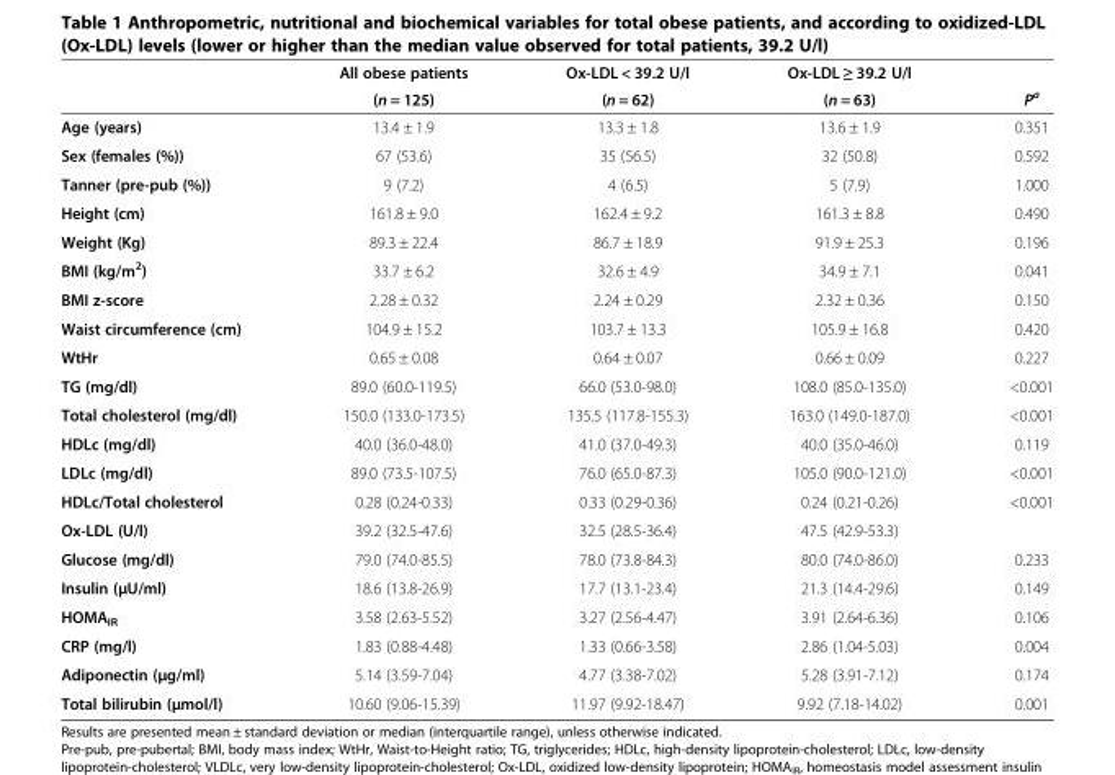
<table><thead><tr><td rowspan="2"></td><td rowspan="2">All obese patients (n = 125)</td><td rowspan="2">Ox-LDL &lt; 39.2 U/l (n = 62)</td><td rowspan="2">Ox-LDL ≥ 39.2 U/l (n = 63)</td><td rowspan="2">P<sup>a</sup></td></tr><tr></tr></thead><tbody><tr><td>Age (years)</td><td>13.4 ± 1.9</td><td>13.3 ± 1.8</td><td>13.6 ± 1.9</td><td>0.351</td></tr><tr><td>Sex (females (%))</td><td>67 (53.6)</td><td>35 (56.5)</td><td>32 (50.8)</td><td>0.592</td></tr><tr><td>Tanner (pre-pub (%))</td><td>9 (7.2)</td><td>4 (6.5)</td><td>5 (7.9)</td><td>1.000</td></tr><tr><td>Height (cm)</td><td>161.8 ± 9.0</td><td>162.4 ± 9.2</td><td>161.3 ± 8.8</td><td>0.490</td></tr><tr><td>Weight (Kg)</td><td>89.3 ± 22.4</td><td>86.7 ± 18.9</td><td>91.9 ± 25.3</td><td>0.196</td></tr><tr><td>BMI (kg/m<sup>2</sup>)</td><td>33.7 ± 6.2</td><td>32.6 ± 4.9</td><td>34.9 ± 7.1</td><td>0.041</td></tr><tr><td>BMI z-score</td><td>2.28 ± 0.32</td><td>2.24 ± 0.29</td><td>2.32 ± 0.36</td><td>0.150</td></tr><tr><td>Waist circumference (cm)</td><td>104.9 ± 15.2</td><td>103.7 ± 13.3</td><td>105.9 ± 16.8</td><td>0.420</td></tr><tr><td>WtHr</td><td>0.65 ± 0.08</td><td>0.64 ± 0.07</td><td>0.66 ± 0.09</td><td>0.227</td></tr><tr><td>TG (mg/dl)</td><td>89.0 (60.0-119.5)</td><td>66.0 (53.0-98.0)</td><td>108.0 (85.0-135.0)</td><td>&lt;0.001</td></tr><tr><td>Total cholesterol (mg/dl)</td><td>150.0 (133.0-173.5)</td><td>135.5 (117.8-155.3)</td><td>163.0 (149.0-187.0)</td><td>&lt;0.001</td></tr><tr><td>HDLc (mg/dl)</td><td>40.0 (36.0-48.0)</td><td>41.0 (37.0-49.3)</td><td>40.0 (35.0-46.0)</td><td>0.119</td></tr><tr><td>LDLc (mg/dl)</td><td>89.0 (73.5-107.5)</td><td>76.0 (65.0-87.3)</td><td>105.0 (90.0-121.0)</td><td>&lt;0.001</td></tr><tr><td>HDLc/Total cholesterol</td><td>0.28 (0.24-0.33)</td><td>0.33 (0.29-0.36)</td><td>0.24 (0.21-0.26)</td><td>&lt;0.001</td></tr><tr><td>Ox-LDL (U/l)</td><td>39.2 (32.5-47.6)</td><td>32.5 (28.5-36.4)</td><td>47.5 (42.9-53.3)</td><td></td></tr><tr><td>Glucose (mg/dl)</td><td>79.0 (74.0-85.5)</td><td>78.0 (73.8-84.3)</td><td>80.0 (74.0-86.0)</td><td>0.233</td></tr><tr><td>Insulin (μU/ml)</td><td>18.6 (13.8-26.9)</td><td>17.7 (13.1-23.4)</td><td>21.3 (14.4-29.6)</td><td>0.149</td></tr><tr><td>HOMA<sub>IR</sub></td><td>3.58 (2.63-5.52)</td><td>3.27 (2.56-4.47)</td><td>3.91 (2.64-6.36)</td><td>0.106</td></tr><tr><td>CRP (mg/l)</td><td>1.83 (0.88-4.48)</td><td>1.33 (0.66-3.58)</td><td>2.86 (1.04-5.03)</td><td>0.004</td></tr><tr><td>Adiponectin (μg/ml)</td><td>5.14 (3.59-7.04)</td><td>4.77 (3.38-7.02)</td><td>5.28 (3.91-7.12)</td><td>0.174</td></tr><tr><td>Total bilirubin (μmol/l)</td><td>10.60 (9.06-15.39)</td><td>11.97 (9.92-18.47)</td><td>9.92 (7.18-14.02)</td><td>0.001</td></tr></tbody></table>